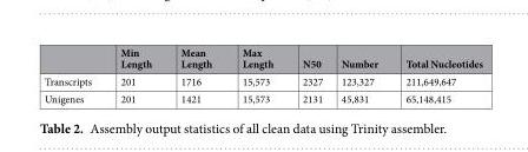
<table><thead><tr><td></td><td>Min Length</td><td>Mean Length</td><td>Max Length</td><td>N50</td><td>Number</td><td>Total Nucleotides</td></tr></thead><tbody><tr><td>Transcripts</td><td>201</td><td>1716</td><td>15,573</td><td>2327</td><td>123,327</td><td>211,649,647</td></tr><tr><td>Unigenes</td><td>201</td><td>1421</td><td>15,573</td><td>2131</td><td>45,831</td><td>65,148,415</td></tr></tbody></table>